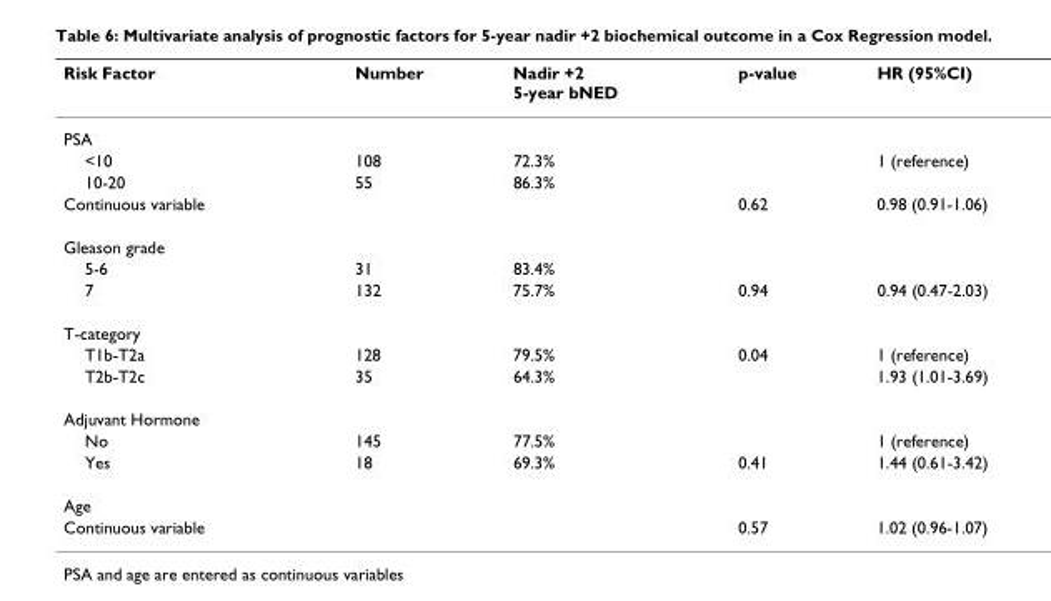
<table><thead><tr><td>Risk Factor</td><td>Number</td><td>Nadir +2 5-year bNED</td><td>p-value</td><td>HR (95%CI)</td></tr></thead><tbody><tr><td colspan="5">PSA</td></tr><tr><td>&lt;10</td><td>108</td><td>72.3%</td><td></td><td>1 (reference)</td></tr><tr><td>10-20</td><td>55</td><td>86.3%</td><td></td><td></td></tr><tr><td>Continuous variable</td><td></td><td></td><td>0.62</td><td>0.98 (0.91-1.06)</td></tr><tr><td colspan="5">Gleason grade</td></tr><tr><td>5-6</td><td>31</td><td>83.4%</td><td></td><td></td></tr><tr><td>7</td><td>132</td><td>75.7%</td><td>0.94</td><td>0.94 (0.47-2.03)</td></tr><tr><td colspan="5">T-category</td></tr><tr><td>T1b-T2a</td><td>128</td><td>79.5%</td><td>0.04</td><td>1 (reference)</td></tr><tr><td>T2b-T2c</td><td>35</td><td>64.3%</td><td></td><td>1.93 (1.01-3.69)</td></tr><tr><td colspan="5">Adjuvant Hormone</td></tr><tr><td>No</td><td>145</td><td>77.5%</td><td></td><td>1 (reference)</td></tr><tr><td>Yes</td><td>18</td><td>69.3%</td><td>0.41</td><td>1.44 (0.61-3.42)</td></tr><tr><td colspan="5">Age</td></tr><tr><td>Continuous variable</td><td></td><td></td><td>0.57</td><td>1.02 (0.96-1.07)</td></tr></tbody></table>